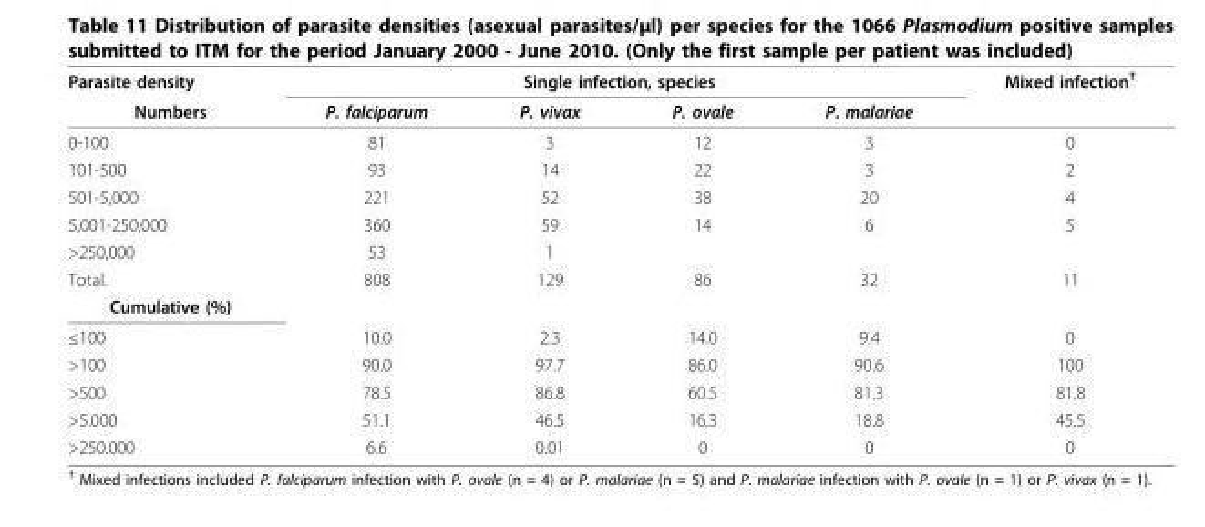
<table><thead><tr><td rowspan="2">Parasite density Numbers</td><td colspan="4">Single infection, species</td><td rowspan="2">Mixed infection<sup>†</sup></td></tr><tr><td>P. falciparum</td><td>P. vivax</td><td>P. ovale</td><td>P. malariae</td></tr></thead><tbody><tr><td>0-100</td><td>81</td><td>3</td><td>12</td><td>3</td><td>0</td></tr><tr><td>101-500</td><td>93</td><td>14</td><td>22</td><td>3</td><td>2</td></tr><tr><td>501-5,000</td><td>221</td><td>52</td><td>38</td><td>20</td><td>4</td></tr><tr><td>5,001-250,000</td><td>360</td><td>59</td><td>14</td><td>6</td><td>5</td></tr><tr><td>&gt;250,000</td><td>53</td><td>1</td><td></td><td></td><td></td></tr><tr><td>Total.</td><td>808</td><td>129</td><td>86</td><td>32</td><td>11</td></tr><tr><td colspan="6">Cumulative (%)</td></tr><tr><td>≤100</td><td>10.0</td><td>2.3</td><td>14.0</td><td>9.4</td><td>0</td></tr><tr><td>&gt;100</td><td>90.0</td><td>97.7</td><td>86.0</td><td>90.6</td><td>100</td></tr><tr><td>&gt;500</td><td>78.5</td><td>86.8</td><td>60.5</td><td>81.3</td><td>81.8</td></tr><tr><td>&gt;5.000</td><td>51.1</td><td>46.5</td><td>16.3</td><td>18.8</td><td>45.5</td></tr><tr><td>&gt;250.000</td><td>6.6</td><td>0.01</td><td>0</td><td>0</td><td>0</td></tr></tbody></table>